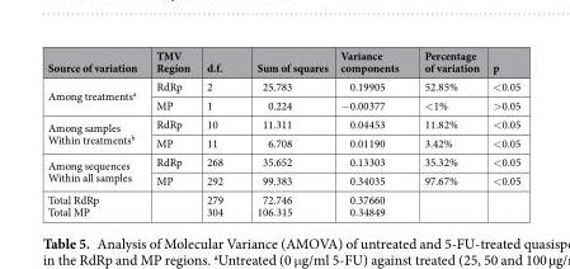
<table><thead><tr><td>Source of variation</td><td>TMV Region</td><td>d.f.</td><td>Sum of squares</td><td>Variance components</td><td>Percentage of variation</td><td>p</td></tr></thead><tbody><tr><td rowspan="2">Among treatments<sup>a</sup></td><td>RdRp</td><td>2</td><td>25.783</td><td>0.19905</td><td>52.85%</td><td>&lt;0.05</td></tr><tr><td>MP</td><td>1</td><td>0.224</td><td>−0.00377</td><td>&lt;1%</td><td>&gt;0.05</td></tr><tr><td rowspan="2">Among samples Within treatments<sup>b</sup></td><td>RdRp</td><td>10</td><td>11.311</td><td>0.04453</td><td>11.82%</td><td>&lt;0.05</td></tr><tr><td>MP</td><td>11</td><td>6.708</td><td>0.01190</td><td>3.42%</td><td>&lt;0.05</td></tr><tr><td rowspan="2">Among sequences Within all samples</td><td>RdRp</td><td>268</td><td>35.652</td><td>0.13303</td><td>35.32%</td><td>&lt;0.05</td></tr><tr><td>MP</td><td>292</td><td>99.383</td><td>0.34035</td><td>97.67%</td><td>&lt;0.05</td></tr><tr><td>Total RdRp Total MP</td><td></td><td>279 304</td><td>72.746 106.315</td><td>0.37660 0.34849</td><td></td><td></td></tr></tbody></table>